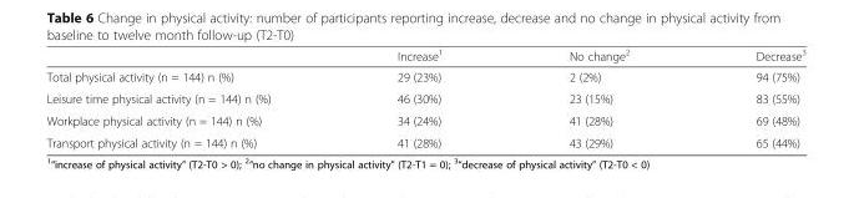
<table><thead><tr><td></td><td>Increase<sup>1</sup></td><td>No change<sup>2</sup></td><td>Decrease<sup>3</sup></td></tr></thead><tbody><tr><td>Total physical activity (n = 144) n (%)</td><td>29 (23%)</td><td>2 (2%)</td><td>94 (75%)</td></tr><tr><td>Leisure time physical activity (n = 144) n (%)</td><td>46 (30%)</td><td>23 (15%)</td><td>83 (55%)</td></tr><tr><td>Workplace physical activity (n = 144) n (%)</td><td>34 (24%)</td><td>41 (28%)</td><td>69 (48%)</td></tr><tr><td>Transport physical activity (n = 144) n (%)</td><td>41 (28%)</td><td>43 (29%)</td><td>65 (44%)</td></tr></tbody></table>